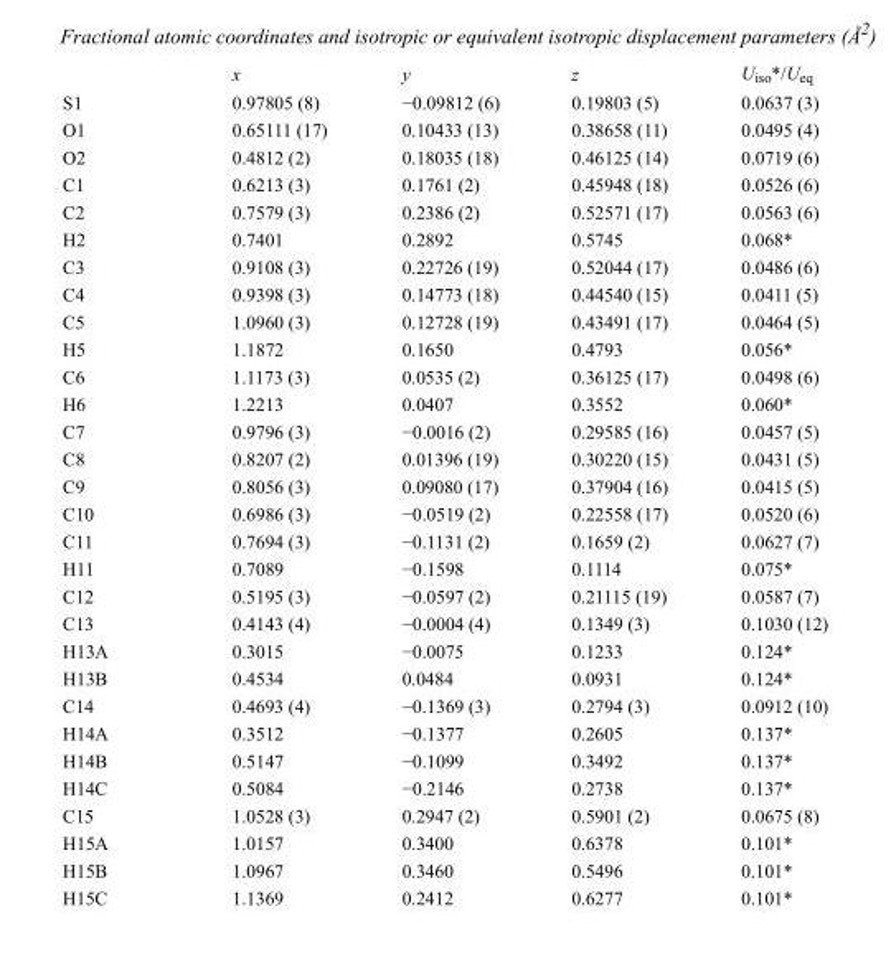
<table><thead><tr><td></td><td>x</td><td>y</td><td>z</td><td>U<sub>iso</sub>*/U<sub>eq</sub></td></tr></thead><tbody><tr><td>S1</td><td>0.97805 (8)</td><td>−0.09812 (6)</td><td>0.19803 (5)</td><td>0.0637 (3)</td></tr><tr><td>O1</td><td>0.65111 (17)</td><td>0.10433 (13)</td><td>0.38658 (11)</td><td>0.0495 (4)</td></tr><tr><td>O2</td><td>0.4812 (2)</td><td>0.18035 (18)</td><td>0.46125 (14)</td><td>0.0719 (6)</td></tr><tr><td>C1</td><td>0.6213 (3)</td><td>0.1761 (2)</td><td>0.45948 (18)</td><td>0.0526 (6)</td></tr><tr><td>C2</td><td>0.7579 (3)</td><td>0.2386 (2)</td><td>0.52571 (17)</td><td>0.0563 (6)</td></tr><tr><td>H2</td><td>0.7401</td><td>0.2892</td><td>0.5745</td><td>0.068*</td></tr><tr><td>C3</td><td>0.9108 (3)</td><td>0.22726 (19)</td><td>0.52044 (17)</td><td>0.0486 (6)</td></tr><tr><td>C4</td><td>0.9398 (3)</td><td>0.14773 (18)</td><td>0.44540 (15)</td><td>0.0411 (5)</td></tr><tr><td>C5</td><td>1.0960 (3)</td><td>0.12728 (19)</td><td>0.43491 (17)</td><td>0.0464 (5)</td></tr><tr><td>H5</td><td>1.1872</td><td>0.1650</td><td>0.4793</td><td>0.056*</td></tr><tr><td>C6</td><td>1.1173 (3)</td><td>0.0535 (2)</td><td>0.36125 (17)</td><td>0.0498 (6)</td></tr><tr><td>H6</td><td>1.2213</td><td>0.0407</td><td>0.3552</td><td>0.060*</td></tr><tr><td>C7</td><td>0.9796 (3)</td><td>−0.0016 (2)</td><td>0.29585 (16)</td><td>0.0457 (5)</td></tr><tr><td>C8</td><td>0.8207 (2)</td><td>0.01396 (19)</td><td>0.30220 (15)</td><td>0.0431 (5)</td></tr><tr><td>C9</td><td>0.8056 (3)</td><td>0.09080 (17)</td><td>0.37904 (16)</td><td>0.0415 (5)</td></tr><tr><td>C10</td><td>0.6986 (3)</td><td>−0.0519 (2)</td><td>0.22558 (17)</td><td>0.0520 (6)</td></tr><tr><td>C11</td><td>0.7694 (3)</td><td>−0.1131 (2)</td><td>0.1659 (2)</td><td>0.0627 (7)</td></tr><tr><td>H11</td><td>0.7089</td><td>−0.1598</td><td>0.1114</td><td>0.075*</td></tr><tr><td>C12</td><td>0.5195 (3)</td><td>−0.0597 (2)</td><td>0.21115 (19)</td><td>0.0587 (7)</td></tr><tr><td>C13</td><td>0.4143 (4)</td><td>−0.0004 (4)</td><td>0.1349 (3)</td><td>0.1030 (12)</td></tr><tr><td>H13A</td><td>0.3015</td><td>−0.0075</td><td>0.1233</td><td>0.124*</td></tr><tr><td>H13B</td><td>0.4534</td><td>0.0484</td><td>0.0931</td><td>0.124*</td></tr><tr><td>C14</td><td>0.4693 (4)</td><td>−0.1369 (3)</td><td>0.2794 (3)</td><td>0.0912 (10)</td></tr><tr><td>H14A</td><td>0.3512</td><td>−0.1377</td><td>0.2605</td><td>0.137*</td></tr><tr><td>H14B</td><td>0.5147</td><td>−0.1099</td><td>0.3492</td><td>0.137*</td></tr><tr><td>H14C</td><td>0.5084</td><td>−0.2146</td><td>0.2738</td><td>0.137*</td></tr><tr><td>C15</td><td>1.0528 (3)</td><td>0.2947 (2)</td><td>0.5901 (2)</td><td>0.0675 (8)</td></tr><tr><td>H15A</td><td>1.0157</td><td>0.3400</td><td>0.6378</td><td>0.101*</td></tr><tr><td>H15B</td><td>1.0967</td><td>0.3460</td><td>0.5496</td><td>0.101*</td></tr><tr><td>H15C</td><td>1.1369</td><td>0.2412</td><td>0.6277</td><td>0.101*</td></tr></tbody></table>